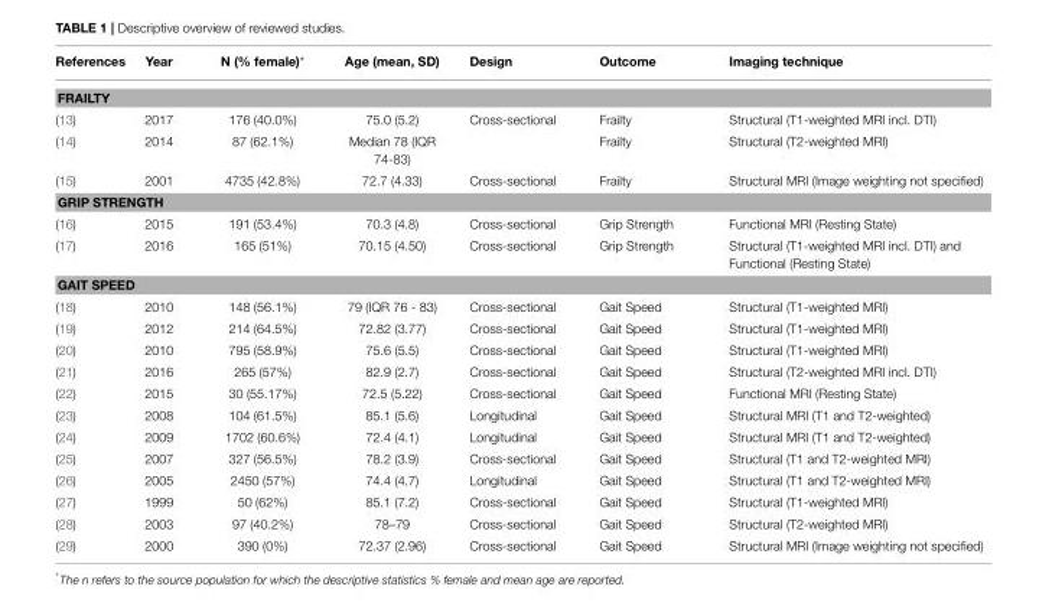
<table><thead><tr><td>References</td><td>Year</td><td>N (% female)*</td><td>Age (mean, SD)</td><td>Design</td><td>Outcome</td><td>Imaging technique</td></tr></thead><tbody><tr><td colspan="7">FRAILTY</td></tr><tr><td>(13)</td><td>2017</td><td>176 (40.0%)</td><td>75.0 (5.2)</td><td>Cross-sectional</td><td>Frailty</td><td>Structural (T1-weighted MRI incl. DTI)</td></tr><tr><td>(14)</td><td>2014</td><td>87 (62.1%)</td><td>Median 78 (IQR 74-83)</td><td></td><td>Frailty</td><td>Structural (T2-weighted MRI)</td></tr><tr><td>(15)</td><td>2001</td><td>4735 (42.8%)</td><td>72.7 (4.33)</td><td>Cross-sectional</td><td>Frailty</td><td>Structural MRI (Image weighting not specified)</td></tr><tr><td colspan="7">GRIP STRENGTH</td></tr><tr><td>(16)</td><td>2015</td><td>191 (53.4%)</td><td>70.3 (4.8)</td><td>Cross-sectional</td><td>Grip Strength</td><td>Functional MRI (Resting State)</td></tr><tr><td>(17)</td><td>2016</td><td>165 (51%)</td><td>70.15 (4.50)</td><td>Cross-sectional</td><td>Grip Strength</td><td>Structural (T1-weighted MRI incl. DTI) and Functional (Resting State)</td></tr><tr><td colspan="7">GAIT SPEED</td></tr><tr><td>(18)</td><td>2010</td><td>148 (56.1%)</td><td>79 (IQR 76 - 83)</td><td>Cross-sectional</td><td>Gait Speed</td><td>Structural (T1-weighted MRI)</td></tr><tr><td>(19)</td><td>2012</td><td>214 (64.5%)</td><td>72.82 (3.77)</td><td>Cross-sectional</td><td>Gait Speed</td><td>Structural (T1-weighted MRI)</td></tr><tr><td>(20)</td><td>2010</td><td>795 (58.9%)</td><td>75.6 (5.5)</td><td>Cross-sectional</td><td>Gait Speed</td><td>Structural (T1-weighted MRI)</td></tr><tr><td>(21)</td><td>2016</td><td>265 (57%)</td><td>82.9 (2.7)</td><td>Cross-sectional</td><td>Gait Speed</td><td>Structural (T2-weighted MRI incl. DTI)</td></tr><tr><td>(22)</td><td>2015</td><td>30 (55.17%)</td><td>72.5 (5.22)</td><td>Cross-sectional</td><td>Gait Speed</td><td>Functional MRI (Resting State)</td></tr><tr><td>(23)</td><td>2008</td><td>104 (61.5%)</td><td>85.1 (5.6)</td><td>Longitudinal</td><td>Gait Speed</td><td>Structural MRI (T1 and T2-weighted)</td></tr><tr><td>(24)</td><td>2009</td><td>1702 (60.6%)</td><td>72.4 (4.1)</td><td>Longitudinal</td><td>Gait Speed</td><td>Structural MRI (T1 and T2-weighted)</td></tr><tr><td>(25)</td><td>2007</td><td>327 (56.5%)</td><td>78.2 (3.9)</td><td>Cross-sectional</td><td>Gait Speed</td><td>Structural (T1 and T2-weighted MRI)</td></tr><tr><td>(26)</td><td>2005</td><td>2450 (57%)</td><td>74.4 (4.7)</td><td>Longitudinal</td><td>Gait Speed</td><td>Structural (T1 and T2-weighted MRI)</td></tr><tr><td>(27)</td><td>1999</td><td>50 (62%)</td><td>85.1 (7.2)</td><td>Cross-sectional</td><td>Gait Speed</td><td>Structural (T1-weighted MRI)</td></tr><tr><td>(28)</td><td>2003</td><td>97 (40.2%)</td><td>78–79</td><td>Cross-sectional</td><td>Gait Speed</td><td>Structural (T2-weighted MRI)</td></tr><tr><td>(29)</td><td>2000</td><td>390 (0%)</td><td>72.37 (2.96)</td><td>Cross-sectional</td><td>Gait Speed</td><td>Structural MRI (Image weighting not specified)</td></tr></tbody></table>